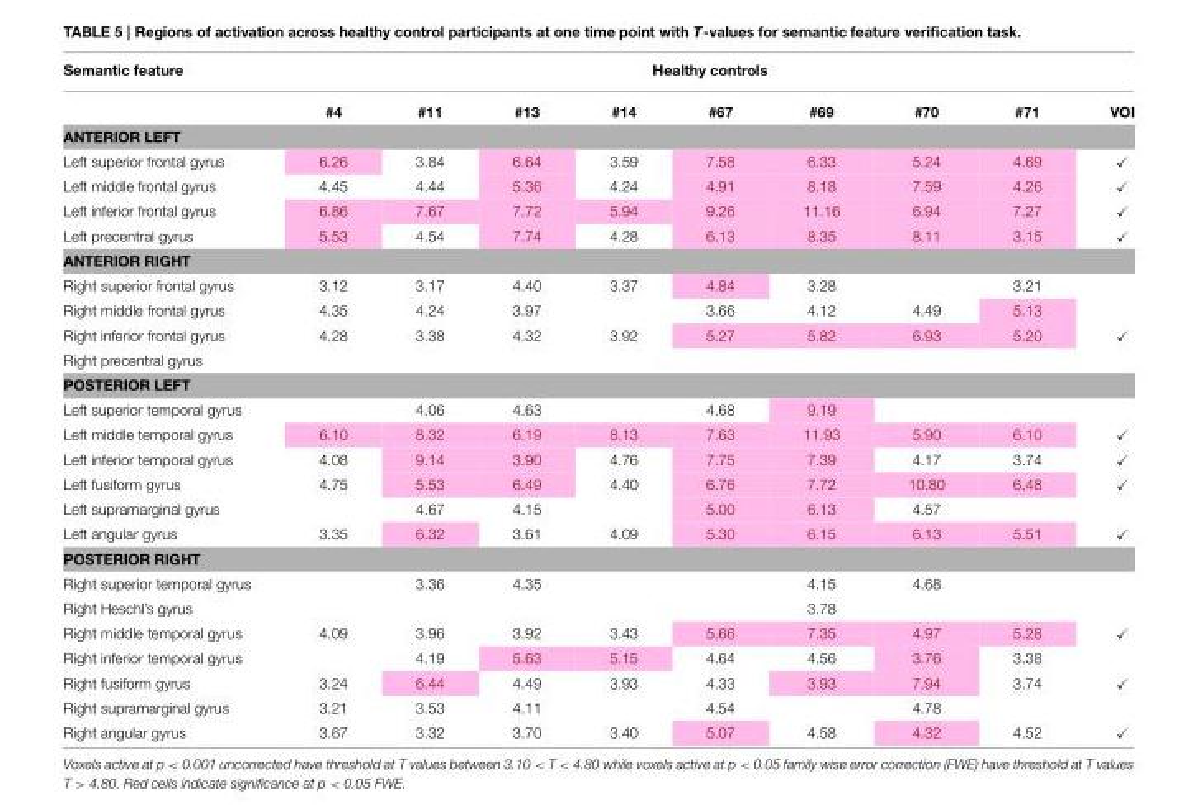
<table><thead><tr><td rowspan="2">Semantic feature</td><td colspan="9">Healthy controls</td></tr><tr><td>#4</td><td>#11</td><td>#13</td><td>#14</td><td>#67</td><td>#69</td><td>#70</td><td>#71</td><td>VOI</td></tr></thead><tbody><tr><td colspan="10">ANTERIOR LEFT</td></tr><tr><td>Left superior frontal gyrus</td><td>6.26</td><td>3.84</td><td>6.64</td><td>3.59</td><td>7.58</td><td>6.33</td><td>5.24</td><td>4.69</td><td>✓</td></tr><tr><td>Left middle frontal gyrus</td><td>4.45</td><td>4.44</td><td>5.36</td><td>4.24</td><td>4.91</td><td>8.18</td><td>7.59</td><td>4.26</td><td>✓</td></tr><tr><td>Left inferior frontal gyrus</td><td>6.86</td><td>7.67</td><td>7.72</td><td>5.94</td><td>9.26</td><td>11.16</td><td>6.94</td><td>7.27</td><td>✓</td></tr><tr><td>Left precentral gyrus</td><td>5.53</td><td>4.54</td><td>7.74</td><td>4.28</td><td>6.13</td><td>8.35</td><td>8.11</td><td>3.15</td><td>✓</td></tr><tr><td colspan="10">ANTERIOR RIGHT</td></tr><tr><td>Right superior frontal gyrus</td><td>3.12</td><td>3.17</td><td>4.40</td><td>3.37</td><td>4.84</td><td>3.28</td><td></td><td>3.21</td><td></td></tr><tr><td>Right middle frontal gyrus</td><td>4.35</td><td>4.24</td><td>3.97</td><td></td><td>3.66</td><td>4.12</td><td>4.49</td><td>5.13</td><td></td></tr><tr><td>Right inferior frontal gyrus</td><td>4.28</td><td>3.38</td><td>4.32</td><td>3.92</td><td>5.27</td><td>5.82</td><td>6.93</td><td>5.20</td><td>✓</td></tr><tr><td colspan="10">Right precentral gyrus</td></tr><tr><td colspan="10">POSTERIOR LEFT</td></tr><tr><td>Left superior temporal gyrus</td><td></td><td>4.06</td><td>4.63</td><td></td><td>4.68</td><td>9.19</td><td></td><td></td><td></td></tr><tr><td>Left middle temporal gyrus</td><td>6.10</td><td>8.32</td><td>6.19</td><td>8.13</td><td>7.63</td><td>11.93</td><td>5.90</td><td>6.10</td><td>✓</td></tr><tr><td>Left inferior temporal gyrus</td><td>4.08</td><td>9.14</td><td>3.90</td><td>4.76</td><td>7.75</td><td>7.39</td><td>4.17</td><td>3.74</td><td>✓</td></tr><tr><td>Left fusiform gyrus</td><td>4.75</td><td>5.53</td><td>6.49</td><td>4.40</td><td>6.76</td><td>7.72</td><td>10.80</td><td>6.48</td><td>✓</td></tr><tr><td>Left supramarginal gyrus</td><td></td><td>4.67</td><td>4.15</td><td></td><td>5.00</td><td>6.13</td><td>4.57</td><td></td><td></td></tr><tr><td>Left angular gyrus</td><td>3.35</td><td>6.32</td><td>3.61</td><td>4.09</td><td>5.30</td><td>6.15</td><td>6.13</td><td>5.51</td><td>✓</td></tr><tr><td colspan="10">POSTERIOR RIGHT</td></tr><tr><td>Right superior temporal gyrus</td><td></td><td>3.36</td><td>4.35</td><td></td><td></td><td>4.15</td><td>4.68</td><td></td><td></td></tr><tr><td>Right Heschl’s gyrus</td><td></td><td></td><td></td><td></td><td></td><td>3.78</td><td></td><td></td><td></td></tr><tr><td>Right middle temporal gyrus</td><td>4.09</td><td>3.96</td><td>3.92</td><td>3.43</td><td>5.66</td><td>7.35</td><td>4.97</td><td>5.28</td><td>✓</td></tr><tr><td>Right inferior temporal gyrus</td><td></td><td>4.19</td><td>5.63</td><td>5.15</td><td>4.64</td><td>4.56</td><td>3.76</td><td>3.38</td><td></td></tr><tr><td>Right fusiform gyrus</td><td>3.24</td><td>6.44</td><td>4.49</td><td>3.93</td><td>4.33</td><td>3.93</td><td>7.94</td><td>3.74</td><td>✓</td></tr><tr><td>Right supramarginal gyrus</td><td>3.21</td><td>3.53</td><td>4.11</td><td></td><td>4.54</td><td></td><td>4.78</td><td></td><td></td></tr><tr><td>Right angular gyrus</td><td>3.67</td><td>3.32</td><td>3.70</td><td>3.40</td><td>5.07</td><td>4.58</td><td>4.32</td><td>4.52</td><td>✓</td></tr></tbody></table>